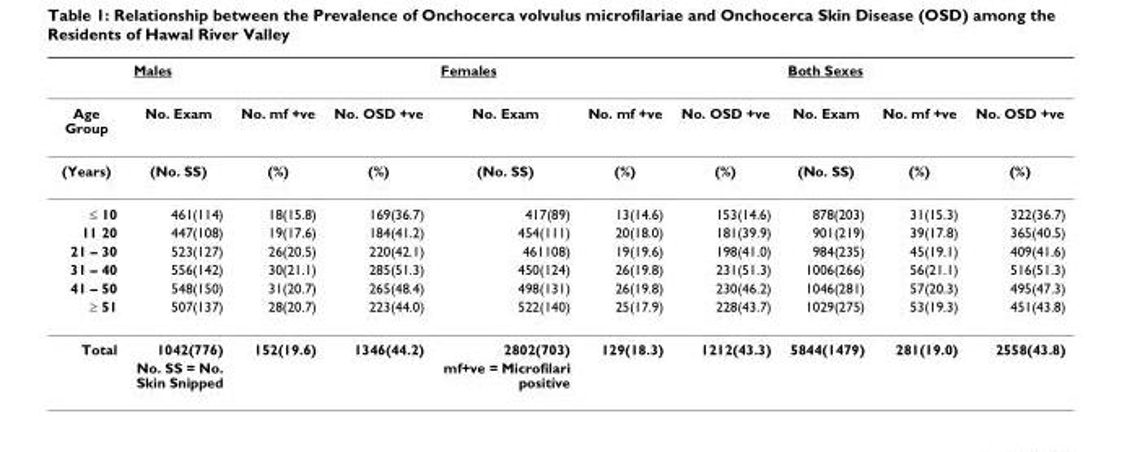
<table><thead><tr><td rowspan="2">Age Group</td><td colspan="3">Males</td><td colspan="3">Females</td><td colspan="3">Both Sexes</td></tr><tr><td>No. Exam</td><td>No. mf +ve</td><td>No. OSD +ve</td><td>No. Exam</td><td>No. mf +ve</td><td>No. OSD +ve</td><td>No. Exam</td><td>No. mf +ve</td><td>No. OSD +ve</td></tr></thead><tbody><tr><td>(Years)</td><td>(No. SS)</td><td>(%)</td><td>(%)</td><td>(No. SS)</td><td>(%)</td><td>(%)</td><td>(No. SS)</td><td>(%)</td><td>(%)</td></tr><tr><td>≤ 10</td><td>461(114)</td><td>18(15.8)</td><td>169(36.7)</td><td>417(89)</td><td>13(14.6)</td><td>153(14.6)</td><td>878(203)</td><td>31(15.3)</td><td>322(36.7)</td></tr><tr><td>11 20</td><td>447(108)</td><td>19(17.6)</td><td>184(41.2)</td><td>454(111)</td><td>20(18.0)</td><td>181(39.9)</td><td>901(219)</td><td>39(17.8)</td><td>365(40.5)</td></tr><tr><td>21 – 30</td><td>523(127)</td><td>26(20.5)</td><td>220(42.1)</td><td>461108)</td><td>19(19.6)</td><td>198(41.0)</td><td>984(235)</td><td>45(19.1)</td><td>409(41.6)</td></tr><tr><td>31 – 40</td><td>556(142)</td><td>30(21.1)</td><td>285(51.3)</td><td>450(124)</td><td>26(19.8)</td><td>231(51.3)</td><td>1006(266)</td><td>56(21.1)</td><td>516(51.3)</td></tr><tr><td>41 – 50</td><td>548(150)</td><td>31(20.7)</td><td>265(48.4)</td><td>498(131)</td><td>26(19.8)</td><td>230(46.2)</td><td>1046(281)</td><td>57(20.3)</td><td>495(47.3)</td></tr><tr><td>≥ 51</td><td>507(137)</td><td>28(20.7)</td><td>223(44.0)</td><td>522(140)</td><td>25(17.9)</td><td>228(43.7)</td><td>1029(275)</td><td>53(19.3)</td><td>451(43.8)</td></tr><tr><td rowspan="2">Total</td><td>1042(776)</td><td>152(19.6)</td><td>1346(44.2)</td><td>2802(703)</td><td>129(18.3)</td><td>1212(43.3)</td><td>5844(1479)</td><td>281(19.0)</td><td>2558(43.8)</td></tr><tr><td>No. SS = No. Skin Snipped</td><td></td><td></td><td>mf+ve = Microfilari positive</td><td></td><td></td><td></td><td></td><td></td></tr></tbody></table>